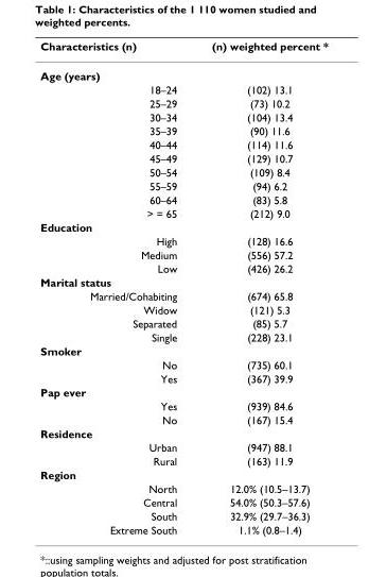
<table><thead><tr><td>Characteristics (n)</td><td>(n) weighted percent *</td></tr></thead><tbody><tr><td colspan="2">Age (years)</td></tr><tr><td>18–24</td><td>(102) 13.1</td></tr><tr><td>25–29</td><td>(73) 10.2</td></tr><tr><td>30–34</td><td>(104) 13.4</td></tr><tr><td>35–39</td><td>(90) 11.6</td></tr><tr><td>40–44</td><td>(114) 11.6</td></tr><tr><td>45–49</td><td>(129) 10.7</td></tr><tr><td>50–54</td><td>(109) 8.4</td></tr><tr><td>55–59</td><td>(94) 6.2</td></tr><tr><td>60–64</td><td>(83) 5.8</td></tr><tr><td>&gt; = 65</td><td>(212) 9.0</td></tr><tr><td colspan="2">Education</td></tr><tr><td>High</td><td>(128) 16.6</td></tr><tr><td>Medium</td><td>(556) 57.2</td></tr><tr><td>Low</td><td>(426) 26.2</td></tr><tr><td colspan="2">Marital status</td></tr><tr><td>Married/Cohabiting</td><td>(674) 65.8</td></tr><tr><td>Widow</td><td>(121) 5.3</td></tr><tr><td>Separated</td><td>(85) 5.7</td></tr><tr><td>Single</td><td>(228) 23.1</td></tr><tr><td colspan="2">Smoker</td></tr><tr><td>No</td><td>(735) 60.1</td></tr><tr><td>Yes</td><td>(367) 39.9</td></tr><tr><td colspan="2">Pap ever</td></tr><tr><td>Yes</td><td>(939) 84.6</td></tr><tr><td>No</td><td>(167) 15.4</td></tr><tr><td colspan="2">Residence</td></tr><tr><td>Urban</td><td>(947) 88.1</td></tr><tr><td>Rural</td><td>(163) 11.9</td></tr><tr><td colspan="2">Region</td></tr><tr><td>North</td><td>12.0% (10.5–13.7)</td></tr><tr><td>Central</td><td>54.0% (50.3–57.6)</td></tr><tr><td>South</td><td>32.9% (29.7–36.3)</td></tr><tr><td>Extreme South</td><td>1.1% (0.8–1.4)</td></tr></tbody></table>